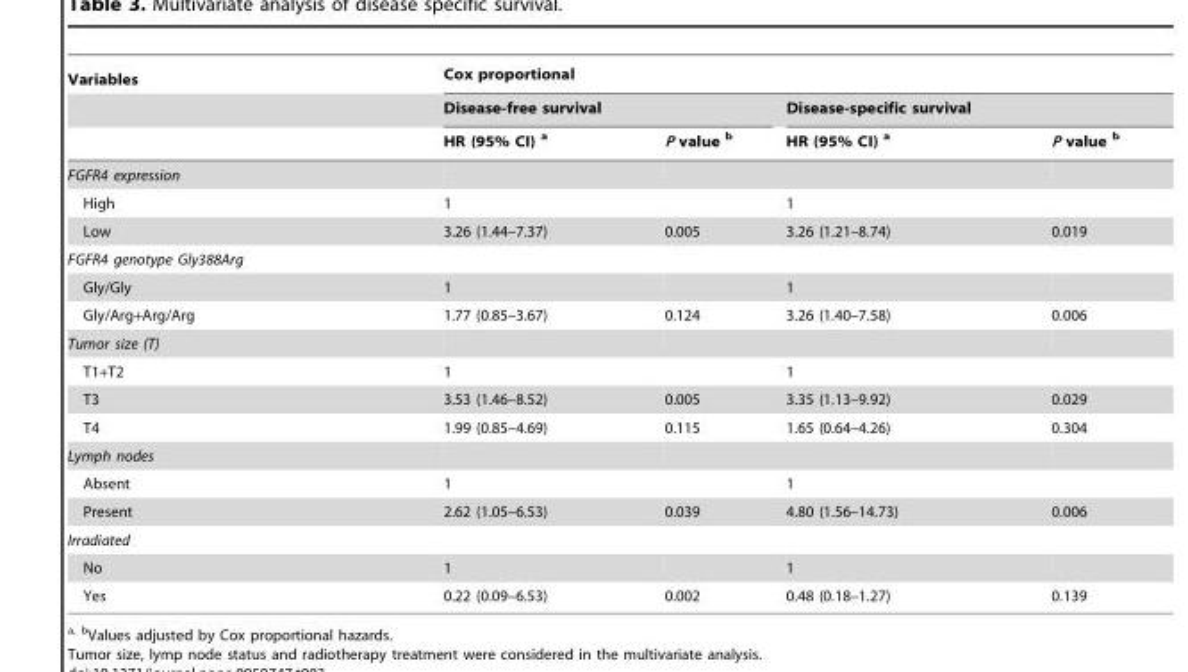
<table><thead><tr><td rowspan="3">Variables</td><td colspan="4">Cox proportional</td></tr><tr><td colspan="2">Disease-free survival</td><td colspan="2">Disease-specific survival</td></tr><tr><td>HR (95% CI) <sup>a</sup></td><td>P value <sup>b</sup></td><td>HR (95% CI) <sup>a</sup></td><td>P value <sup>b</sup></td></tr></thead><tbody><tr><td colspan="5">FGFR4 expression</td></tr><tr><td>High</td><td>1</td><td></td><td>1</td><td></td></tr><tr><td>Low</td><td>3.26 (1.44–7.37)</td><td>0.005</td><td>3.26 (1.21–8.74)</td><td>0.019</td></tr><tr><td colspan="5">FGFR4 genotype Gly388Arg</td></tr><tr><td>Gly/Gly</td><td>1</td><td></td><td>1</td><td></td></tr><tr><td>Gly/Arg+Arg/Arg</td><td>1.77 (0.85–3.67)</td><td>0.124</td><td>3.26 (1.40–7.58)</td><td>0.006</td></tr><tr><td colspan="5">Tumor size (T)</td></tr><tr><td>T1+T2</td><td>1</td><td></td><td>1</td><td></td></tr><tr><td>T3</td><td>3.53 (1.46–8.52)</td><td>0.005</td><td>3.35 (1.13–9.92)</td><td>0.029</td></tr><tr><td>T4</td><td>1.99 (0.85–4.69)</td><td>0.115</td><td>1.65 (0.64–4.26)</td><td>0.304</td></tr><tr><td colspan="5">Lymph nodes</td></tr><tr><td>Absent</td><td>1</td><td></td><td>1</td><td></td></tr><tr><td>Present</td><td>2.62 (1.05–6.53)</td><td>0.039</td><td>4.80 (1.56–14.73)</td><td>0.006</td></tr><tr><td colspan="5">Irradiated</td></tr><tr><td>No</td><td>1</td><td></td><td>1</td><td></td></tr><tr><td>Yes</td><td>0.22 (0.09–6.53)</td><td>0.002</td><td>0.48 (0.18–1.27)</td><td>0.139</td></tr></tbody></table>